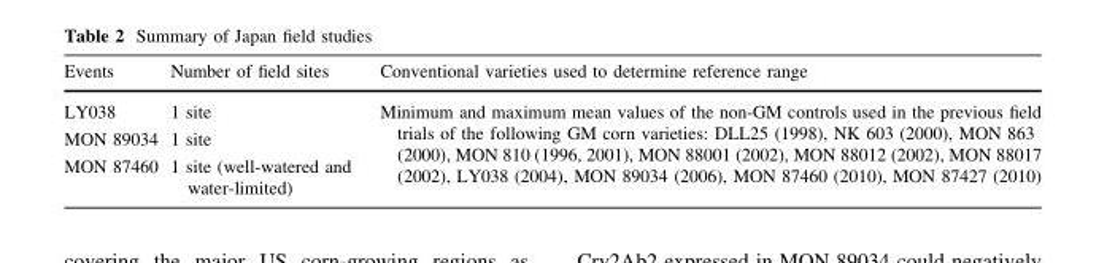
<table><thead><tr><td>Events</td><td>Number of field sites</td><td>Conventional varieties used to determine reference range</td></tr></thead><tbody><tr><td>LY038</td><td>1 site</td><td rowspan="3">Minimum and maximum mean values of the non-GM controls used in the previous field trials of the following GM corn varieties: DLL25 (1998), NK 603 (2000), MON 863 (2000), MON 810 (1996, 2001), MON 88001 (2002), MON 88012 (2002), MON 88017 (2002), LY038 (2004), MON 89034 (2006), MON 87460 (2010), MON 87427 (2010)</td></tr><tr><td>MON 89034</td><td>1 site</td></tr><tr><td>MON 87460</td><td>1 site (well-watered and water-limited)</td></tr></tbody></table>